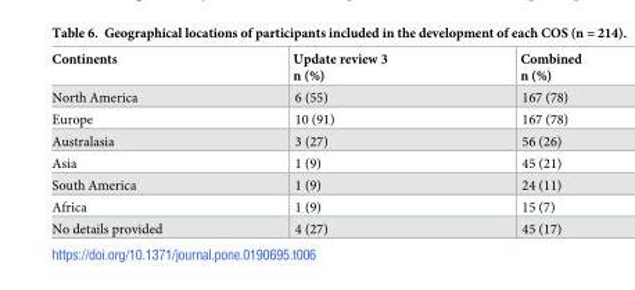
<table><thead><tr><td>Continents</td><td>Update review 3 n (%)</td><td>Combined n (%)</td></tr></thead><tbody><tr><td>North America</td><td>6 (55)</td><td>167 (78)</td></tr><tr><td>Europe</td><td>10 (91)</td><td>167 (78)</td></tr><tr><td>Australasia</td><td>3 (27)</td><td>56 (26)</td></tr><tr><td>Asia</td><td>1 (9)</td><td>45 (21)</td></tr><tr><td>South America</td><td>1 (9)</td><td>24 (11)</td></tr><tr><td>Africa</td><td>1 (9)</td><td>15 (7)</td></tr><tr><td>No details provided</td><td>4 (27)</td><td>45 (17)</td></tr></tbody></table>